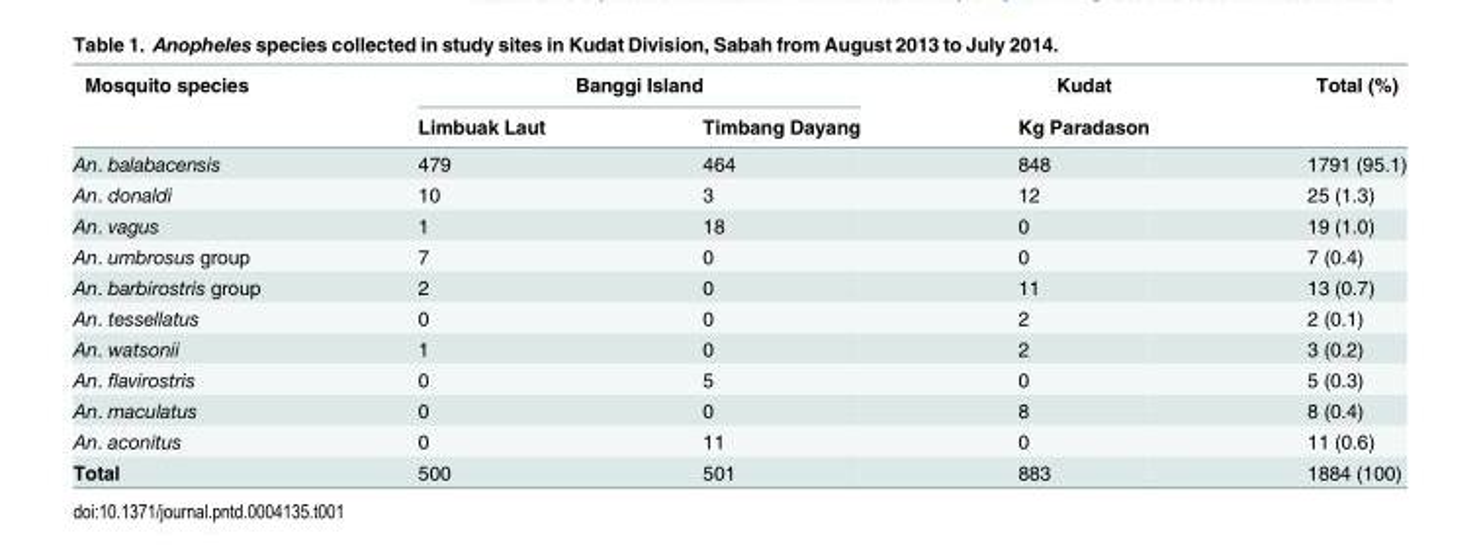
<table><thead><tr><td rowspan="2">Mosquito species</td><td colspan="2">Banggi Island</td><td rowspan="2">Kudat Kg Paradason</td><td rowspan="2">Total (%)</td></tr><tr><td>Limbuak Laut</td><td>Timbang Dayang</td></tr></thead><tbody><tr><td>An. balabacensis</td><td>479</td><td>464</td><td>848</td><td>1791 (95.1)</td></tr><tr><td>An. donaldi</td><td>10</td><td>3</td><td>12</td><td>25 (1.3)</td></tr><tr><td>An. vagus</td><td>1</td><td>18</td><td>0</td><td>19 (1.0)</td></tr><tr><td>An. umbrosus group</td><td>7</td><td>0</td><td>0</td><td>7 (0.4)</td></tr><tr><td>An. barbirostris group</td><td>2</td><td>0</td><td>11</td><td>13 (0.7)</td></tr><tr><td>An. tessellatus</td><td>0</td><td>0</td><td>2</td><td>2 (0.1)</td></tr><tr><td>An. watsonii</td><td>1</td><td>0</td><td>2</td><td>3 (0.2)</td></tr><tr><td>An. flavirostris</td><td>0</td><td>5</td><td>0</td><td>5 (0.3)</td></tr><tr><td>An. maculatus</td><td>0</td><td>0</td><td>8</td><td>8 (0.4)</td></tr><tr><td>An. aconitus</td><td>0</td><td>11</td><td>0</td><td>11 (0.6)</td></tr><tr><td>Total</td><td>500</td><td>501</td><td>883</td><td>1884 (100)</td></tr></tbody></table>